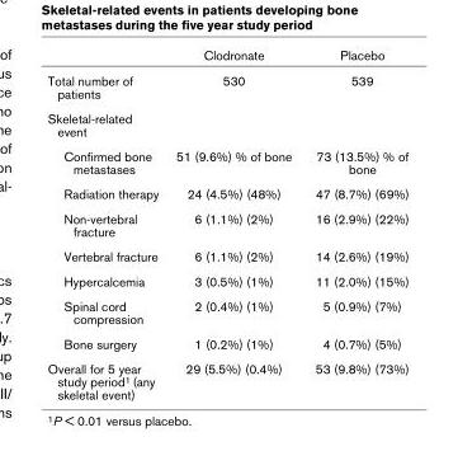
<table><thead><tr><td></td><td>Clodronate</td><td>Placebo</td></tr></thead><tbody><tr><td>Total number of patients</td><td>530</td><td>539</td></tr><tr><td colspan="3">Skeletal-related event</td></tr><tr><td>Confirmed bone metastases</td><td>51 (9.6%) % of bone</td><td>73 (13.5%) % of bone</td></tr><tr><td>Radiation therapy</td><td>24 (4.5%) (48%)</td><td>47 (8.7%) (69%)</td></tr><tr><td>Non-vertebral fracture</td><td>6 (1.1%) (2%)</td><td>16 (2.9%) (22%)</td></tr><tr><td>Vertebral fracture</td><td>6 (1.1%) (2%)</td><td>14 (2.6%) (19%)</td></tr><tr><td>Hypercalcemia</td><td>3 (0.5%) (1%)</td><td>11 (2.0%) (15%)</td></tr><tr><td>Spinal cord compression</td><td>2 (0.4%) (1%)</td><td>5 (0.9%) (7%)</td></tr><tr><td>Bone surgery</td><td>1 (0.2%) (1%)</td><td>4 (0.7%) (5%)</td></tr><tr><td>Overall for 5 year study period1 (any skeletal event)</td><td>29 (5.5%) (0.4%)</td><td>53 (9.8%) (73%)</td></tr></tbody></table>